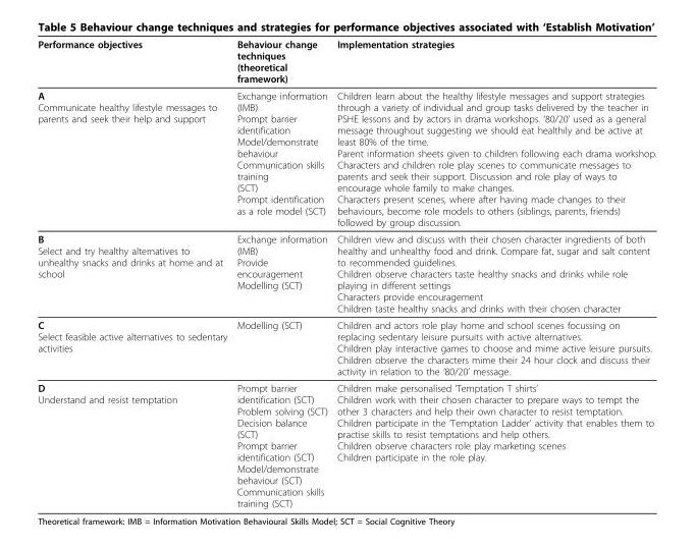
<table><thead><tr><td>Performance objectives</td><td>Behaviour change techniques (theoretical framework)</td><td>Implementation strategies</td></tr></thead><tbody><tr><td>A Communicate healthy lifestyle messages to parents and seek their help and support</td><td>Exchange information (IMB) Prompt barrier identification Model/demonstrate behaviour Communication skills training (SCT) Prompt identification as a role model (SCT)</td><td>Children learn about the healthy lifestyle messages and support strategies through a variety of individual and group tasks delivered by the teacher in PSHE lessons and by actors in drama workshops. ‘80/20’ used as a general message throughout suggesting we should eat healthily and be active at least 80% of the time. Parent information sheets given to children following each drama workshop. Characters and children role play scenes to communicate messages to parents and seek their support. Discussion and role play of ways to encourage whole family to make changes. Characters present scenes, where after having made changes to their behaviours, become role models to others (siblings, parents, friends) followed by group discussion.</td></tr><tr><td>B Select and try healthy alternatives to unhealthy snacks and drinks at home and at school</td><td>Exchange information (IMB) Provide encouragement Modelling (SCT)</td><td>Children view and discuss with their chosen character ingredients of both healthy and unhealthy food and drink. Compare fat, sugar and salt content to recommended guidelines. Children observe characters taste healthy snacks and drinks while role playing in different settings Characters provide encouragement Children taste healthy snacks and drinks with their chosen character</td></tr><tr><td>C Select feasible active alternatives to sedentary activities</td><td>Modelling (SCT)</td><td>Children and actors role play home and school scenes focussing on replacing sedentary leisure pursuits with active alternatives. Children play interactive games to choose and mime active leisure pursuits. Children observe the characters mime their 24 hour clock and discuss their activity in relation to the ‘80/20’ message.</td></tr><tr><td>D Understand and resist temptation</td><td>Prompt barrier identification (SCT) Problem solving (SCT) Decision balance (SCT) Prompt barrier identification (SCT) Model/demonstrate behaviour (SCT) Communication skills training (SCT)</td><td>Children make personalised ‘Temptation T shirts’ Children work with their chosen character to prepare ways to tempt the other 3 characters and help their own character to resist temptation. Children participate in the ‘Temptation Ladder’ activity that enables them to practise skills to resist temptations and help others. Children observe characters role play marketing scenes Children participate in the role play.</td></tr></tbody></table>